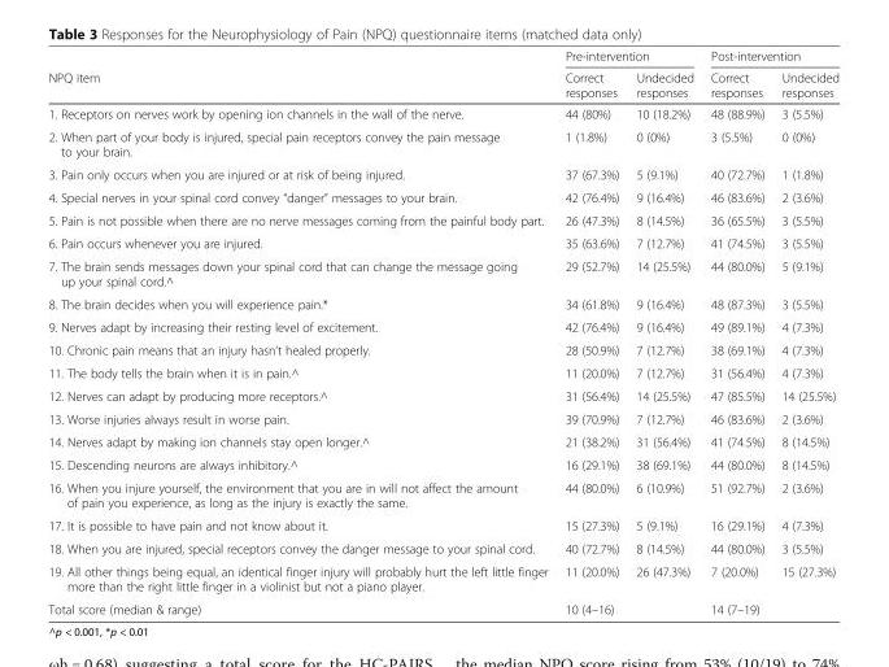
<table><thead><tr><td rowspan="2">NPQ item</td><td colspan="2">Pre-intervention</td><td colspan="2">Post-intervention</td></tr><tr><td>Correct responses</td><td>Undecided responses</td><td>Correct responses</td><td>Undecided responses</td></tr></thead><tbody><tr><td>1. Receptors on nerves work by opening ion channels in the wall of the nerve.</td><td>44 (80%)</td><td>10 (18.2%)</td><td>48 (88.9%)</td><td>3 (5.5%)</td></tr><tr><td>2. When part of your body is injured, special pain receptors convey the pain message to your brain.</td><td>1 (1.8%)</td><td>0 (0%)</td><td>3 (5.5%)</td><td>0 (0%)</td></tr><tr><td>3. Pain only occurs when you are injured or at risk of being injured.</td><td>37 (67.3%)</td><td>5 (9.1%)</td><td>40 (72.7%)</td><td>1 (1.8%)</td></tr><tr><td>4. Special nerves in your spinal cord convey “danger” messages to your brain.</td><td>42 (76.4%)</td><td>9 (16.4%)</td><td>46 (83.6%)</td><td>2 (3.6%)</td></tr><tr><td>5. Pain is not possible when there are no nerve messages coming from the painful body part.</td><td>26 (47.3%)</td><td>8 (14.5%)</td><td>36 (65.5%)</td><td>3 (5.5%)</td></tr><tr><td>6. Pain occurs whenever you are injured.</td><td>35 (63.6%)</td><td>7 (12.7%)</td><td>41 (74.5%)</td><td>3 (5.5%)</td></tr><tr><td>7. The brain sends messages down your spinal cord that can change the message going up your spinal cord.^</td><td>29 (52.7%)</td><td>14 (25.5%)</td><td>44 (80.0%)</td><td>5 (9.1%)</td></tr><tr><td>8. The brain decides when you will experience pain.*</td><td>34 (61.8%)</td><td>9 (16.4%)</td><td>48 (87.3%)</td><td>3 (5.5%)</td></tr><tr><td>9. Nerves adapt by increasing their resting level of excitement.</td><td>42 (76.4%)</td><td>9 (16.4%)</td><td>49 (89.1%)</td><td>4 (7.3%)</td></tr><tr><td>10. Chronic pain means that an injury hasn’t healed properly.</td><td>28 (50.9%)</td><td>7 (12.7%)</td><td>38 (69.1%)</td><td>4 (7.3%)</td></tr><tr><td>11. The body tells the brain when it is in pain.^</td><td>11 (20.0%)</td><td>7 (12.7%)</td><td>31 (56.4%)</td><td>4 (7.3%)</td></tr><tr><td>12. Nerves can adapt by producing more receptors.^</td><td>31 (56.4%)</td><td>14 (25.5%)</td><td>47 (85.5%)</td><td>14 (25.5%)</td></tr><tr><td>13. Worse injuries always result in worse pain.</td><td>39 (70.9%)</td><td>7 (12.7%)</td><td>46 (83.6%)</td><td>2 (3.6%)</td></tr><tr><td>14. Nerves adapt by making ion channels stay open longer.^</td><td>21 (38.2%)</td><td>31 (56.4%)</td><td>41 (74.5%)</td><td>8 (14.5%)</td></tr><tr><td>15. Descending neurons are always inhibitory.^</td><td>16 (29.1%)</td><td>38 (69.1%)</td><td>44 (80.0%)</td><td>8 (14.5%)</td></tr><tr><td>16. When you injure yourself, the environment that you are in will not affect the amount of pain you experience, as long as the injury is exactly the same.</td><td>44 (80.0%)</td><td>6 (10.9%)</td><td>51 (92.7%)</td><td>2 (3.6%)</td></tr><tr><td>17. It is possible to have pain and not know about it.</td><td>15 (27.3%)</td><td>5 (9.1%)</td><td>16 (29.1%)</td><td>4 (7.3%)</td></tr><tr><td>18. When you are injured, special receptors convey the danger message to your spinal cord.</td><td>40 (72.7%)</td><td>8 (14.5%)</td><td>44 (80.0%)</td><td>3 (5.5%)</td></tr><tr><td>19. All other things being equal, an identical finger injury will probably hurt the left little finger more than the right little finger in a violinist but not a piano player.</td><td>11 (20.0%)</td><td>26 (47.3%)</td><td>7 (20.0%)</td><td>15 (27.3%)</td></tr><tr><td>Total score (median &amp; range)</td><td>10 (4–16)</td><td></td><td>14 (7–19)</td><td></td></tr></tbody></table>